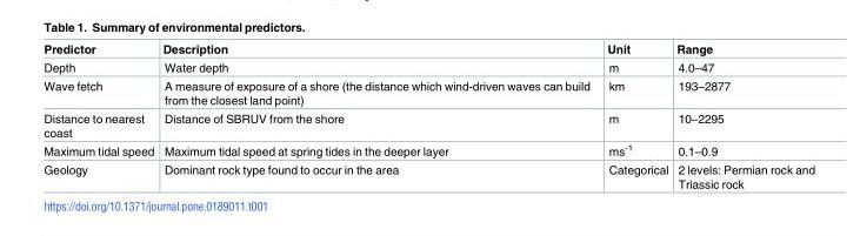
<table><thead><tr><td>Predictor</td><td>Description</td><td>Unit</td><td>Range</td></tr></thead><tbody><tr><td>Depth</td><td>Water depth</td><td>m</td><td>4.0–47</td></tr><tr><td>Wave fetch</td><td>A measure of exposure of a shore (the distance which wind-driven waves can build from the closest land point)</td><td>km</td><td>193–2877</td></tr><tr><td>Distance to nearest coast</td><td>Distance of SBRUV from the shore</td><td>m</td><td>10–2295</td></tr><tr><td>Maximum tidal speed</td><td>Maximum tidal speed at spring tides in the deeper layer</td><td>ms<sup>-1</sup></td><td>0.1–0.9</td></tr><tr><td>Geology</td><td>Dominant rock type found to occur in the area</td><td>Categorical</td><td>2 levels: Permian rock and Triassic rock</td></tr></tbody></table>